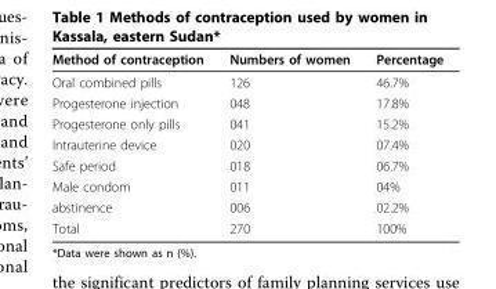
<table><thead><tr><td>Method of contraception</td><td>Numbers of women</td><td>Percentage</td></tr></thead><tbody><tr><td>Oral combined pills</td><td>126</td><td>46.7%</td></tr><tr><td>Progesterone injection</td><td>048</td><td>17.8%</td></tr><tr><td>Progesterone only pills</td><td>041</td><td>15.2%</td></tr><tr><td>Intrauterine device</td><td>020</td><td>07.4%</td></tr><tr><td>Safe period</td><td>018</td><td>06.7%</td></tr><tr><td>Male condom</td><td>011</td><td>04%</td></tr><tr><td>abstinence</td><td>006</td><td>02.2%</td></tr><tr><td>Total</td><td>270</td><td>100%</td></tr></tbody></table>